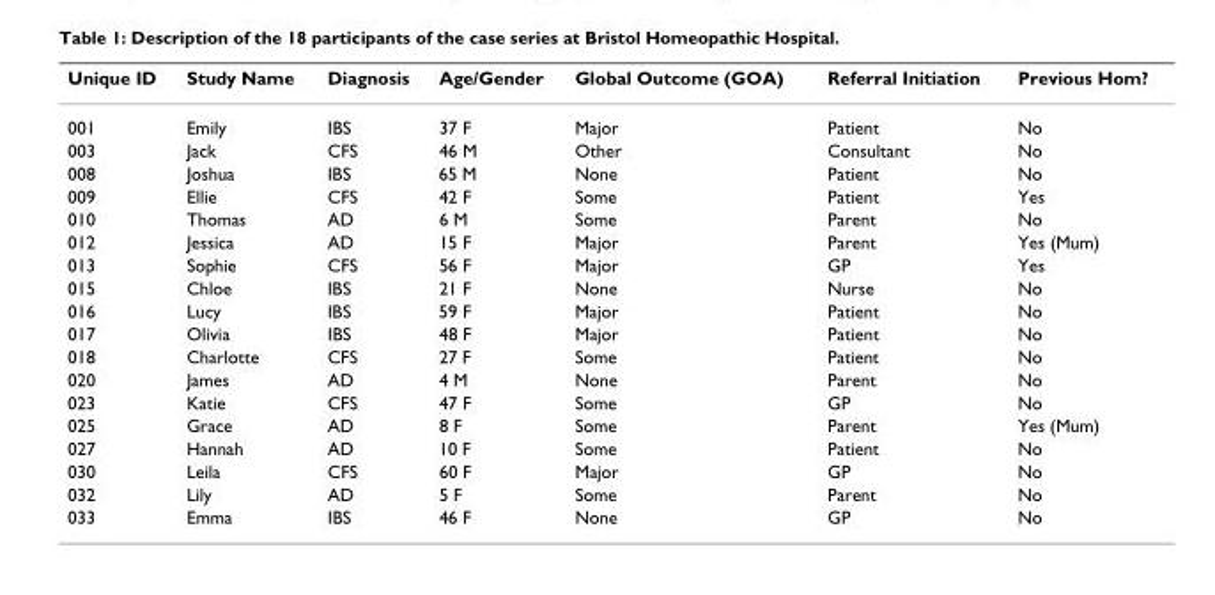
<table><thead><tr><td>Unique ID</td><td>Study Name</td><td>Diagnosis</td><td>Age/Gender</td><td>Global Outcome (GOA)</td><td>Referral Initiation</td><td>Previous Hom?</td></tr></thead><tbody><tr><td>001</td><td>Emily</td><td>IBS</td><td>37 F</td><td>Major</td><td>Patient</td><td>No</td></tr><tr><td>003</td><td>Jack</td><td>CFS</td><td>46 M</td><td>Other</td><td>Consultant</td><td>No</td></tr><tr><td>008</td><td>Joshua</td><td>IBS</td><td>65 M</td><td>None</td><td>Patient</td><td>No</td></tr><tr><td>009</td><td>Ellie</td><td>CFS</td><td>42 F</td><td>Some</td><td>Patient</td><td>Yes</td></tr><tr><td>010</td><td>Thomas</td><td>AD</td><td>6 M</td><td>Some</td><td>Parent</td><td>No</td></tr><tr><td>012</td><td>Jessica</td><td>AD</td><td>15 F</td><td>Major</td><td>Parent</td><td>Yes (Mum)</td></tr><tr><td>013</td><td>Sophie</td><td>CFS</td><td>56 F</td><td>Major</td><td>GP</td><td>Yes</td></tr><tr><td>015</td><td>Chloe</td><td>IBS</td><td>21 F</td><td>None</td><td>Nurse</td><td>No</td></tr><tr><td>016</td><td>Lucy</td><td>IBS</td><td>59 F</td><td>Major</td><td>Patient</td><td>No</td></tr><tr><td>017</td><td>Olivia</td><td>IBS</td><td>48 F</td><td>Major</td><td>Patient</td><td>No</td></tr><tr><td>018</td><td>Charlotte</td><td>CFS</td><td>27 F</td><td>Some</td><td>Patient</td><td>No</td></tr><tr><td>020</td><td>James</td><td>AD</td><td>4 M</td><td>None</td><td>Parent</td><td>No</td></tr><tr><td>023</td><td>Katie</td><td>CFS</td><td>47 F</td><td>Some</td><td>GP</td><td>No</td></tr><tr><td>025</td><td>Grace</td><td>AD</td><td>8 F</td><td>Some</td><td>Parent</td><td>Yes (Mum)</td></tr><tr><td>027</td><td>Hannah</td><td>AD</td><td>10 F</td><td>Some</td><td>Patient</td><td>No</td></tr><tr><td>030</td><td>Leila</td><td>CFS</td><td>60 F</td><td>Major</td><td>GP</td><td>No</td></tr><tr><td>032</td><td>Lily</td><td>AD</td><td>5 F</td><td>Some</td><td>Parent</td><td>No</td></tr><tr><td>033</td><td>Emma</td><td>IBS</td><td>46 F</td><td>None</td><td>GP</td><td>No</td></tr></tbody></table>